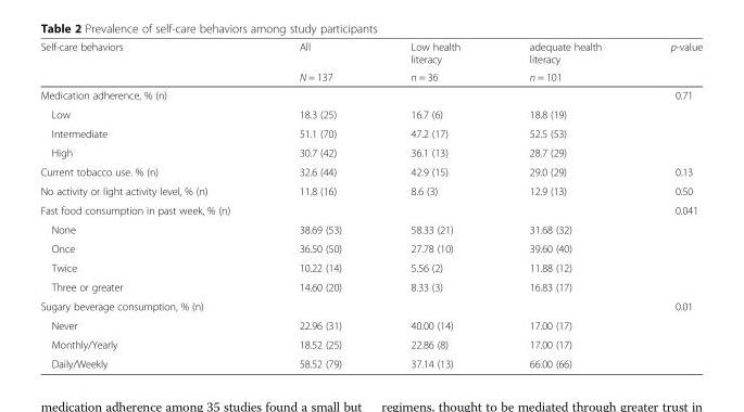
<table><thead><tr><td rowspan="2">Self-care behaviors</td><td rowspan="2">All N = 137</td><td rowspan="2">Low health literacy n = 36</td><td rowspan="2">adequate health literacy n = 101</td><td rowspan="2">p-value</td></tr><tr></tr></thead><tbody><tr><td>Medication adherence, % (n)</td><td></td><td></td><td></td><td>0.71</td></tr><tr><td>Low</td><td>18.3 (25)</td><td>16.7 (6)</td><td>18.8 (19)</td><td></td></tr><tr><td>Intermediate</td><td>51.1 (70)</td><td>47.2 (17)</td><td>52.5 (53)</td><td></td></tr><tr><td>High</td><td>30.7 (42)</td><td>36.1 (13)</td><td>28.7 (29)</td><td></td></tr><tr><td>Current tobacco use. % (n)</td><td>32.6 (44)</td><td>42.9 (15)</td><td>29.0 (29)</td><td>0.13</td></tr><tr><td>No activity or light activity level, % (n)</td><td>11.8 (16)</td><td>8.6 (3)</td><td>12.9 (13)</td><td>0.50</td></tr><tr><td>Fast food consumption in past week, % (n)</td><td></td><td></td><td></td><td>0.041</td></tr><tr><td>None</td><td>38.69 (53)</td><td>58.33 (21)</td><td>31.68 (32)</td><td></td></tr><tr><td>Once</td><td>36.50 (50)</td><td>27.78 (10)</td><td>39.60 (40)</td><td></td></tr><tr><td>Twice</td><td>10.22 (14)</td><td>5.56 (2)</td><td>11.88 (12)</td><td></td></tr><tr><td>Three or greater</td><td>14.60 (20)</td><td>8.33 (3)</td><td>16.83 (17)</td><td></td></tr><tr><td>Sugary beverage consumption, % (n)</td><td></td><td></td><td></td><td>0.01</td></tr><tr><td>Never</td><td>22.96 (31)</td><td>40.00 (14)</td><td>17.00 (17)</td><td></td></tr><tr><td>Monthly/Yearly</td><td>18.52 (25)</td><td>22.86 (8)</td><td>17.00 (17)</td><td></td></tr><tr><td>Daily/Weekly</td><td>58.52 (79)</td><td>37.14 (13)</td><td>66.00 (66)</td><td></td></tr></tbody></table>